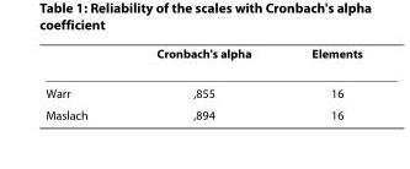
<table><thead><tr><td></td><td>Cronbach&#x27;s alpha</td><td>Elements</td></tr></thead><tbody><tr><td>Warr</td><td>,855</td><td>16</td></tr><tr><td>Maslach</td><td>,894</td><td>16</td></tr></tbody></table>